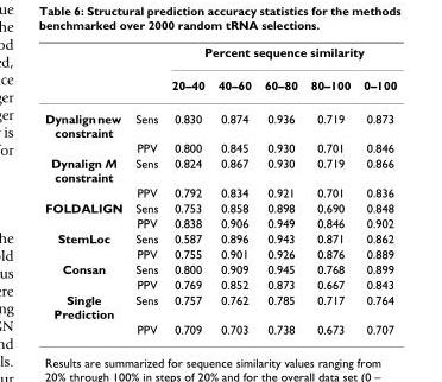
<table><thead><tr><td rowspan="2"></td><td rowspan="2"></td><td colspan="5">Percent sequence similarity</td></tr><tr><td>20–40</td><td>40–60</td><td>60–80</td><td>80–100</td><td>0–100</td></tr></thead><tbody><tr><td rowspan="2">Dynalign new constraint</td><td>Sens</td><td>0.830</td><td>0.874</td><td>0.936</td><td>0.719</td><td>0.873</td></tr><tr><td>PPV</td><td>0.800</td><td>0.845</td><td>0.930</td><td>0.701</td><td>0.846</td></tr><tr><td rowspan="2">Dynalign M constraint</td><td>Sens</td><td>0.824</td><td>0.867</td><td>0.930</td><td>0.719</td><td>0.866</td></tr><tr><td>PPV</td><td>0.792</td><td>0.834</td><td>0.921</td><td>0.701</td><td>0.836</td></tr><tr><td rowspan="2">FOLDALIGN</td><td>Sens</td><td>0.753</td><td>0.858</td><td>0.898</td><td>0.690</td><td>0.848</td></tr><tr><td>PPV</td><td>0.838</td><td>0.906</td><td>0.949</td><td>0.846</td><td>0.902</td></tr><tr><td rowspan="2">StemLoc</td><td>Sens</td><td>0.587</td><td>0.896</td><td>0.943</td><td>0.871</td><td>0.862</td></tr><tr><td>PPV</td><td>0.755</td><td>0.901</td><td>0.926</td><td>0.876</td><td>0.889</td></tr><tr><td rowspan="2">Consan</td><td>Sens</td><td>0.800</td><td>0.909</td><td>0.945</td><td>0.768</td><td>0.899</td></tr><tr><td>PPV</td><td>0.769</td><td>0.852</td><td>0.873</td><td>0.667</td><td>0.843</td></tr><tr><td rowspan="2">Single Prediction</td><td>Sens</td><td>0.757</td><td>0.762</td><td>0.785</td><td>0.717</td><td>0.764</td></tr><tr><td>PPV</td><td>0.709</td><td>0.703</td><td>0.738</td><td>0.673</td><td>0.707</td></tr></tbody></table>